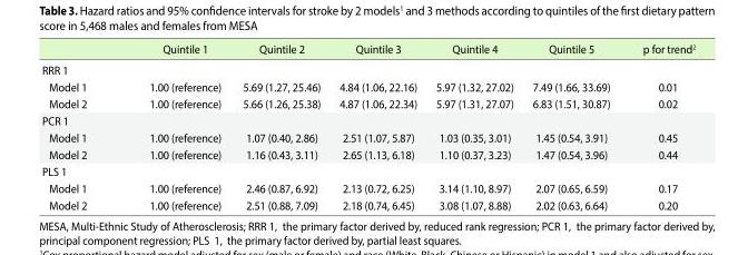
<table><thead><tr><td></td><td>Quintile 1</td><td>Quintile 2</td><td>Quintile 3</td><td>Quintile 4</td><td>Quintile 5</td><td>p for trend<sup>2</sup></td></tr></thead><tbody><tr><td colspan="7">RRR 1</td></tr><tr><td>Model 1</td><td>1.00 (reference)</td><td>5.69 (1.27, 25.46)</td><td>4.84 (1.06, 22.16)</td><td>5.97 (1.32, 27.02)</td><td>7.49 (1.66, 33.69)</td><td>0.01</td></tr><tr><td>Model 2</td><td>1.00 (reference)</td><td>5.66 (1.26, 25.38)</td><td>4.87 (1.06, 22.34)</td><td>5.97 (1.31, 27.07)</td><td>6.83 (1.51, 30.87)</td><td>0.02</td></tr><tr><td colspan="7">PCR 1</td></tr><tr><td>Model 1</td><td>1.00 (reference)</td><td>1.07 (0.40, 2.86)</td><td>2.51 (1.07, 5.87)</td><td>1.03 (0.35, 3.01)</td><td>1.45 (0.54, 3.91)</td><td>0.45</td></tr><tr><td>Model 2</td><td>1.00 (reference)</td><td>1.16 (0.43, 3.11)</td><td>2.65 (1.13, 6.18)</td><td>1.10 (0.37, 3.23)</td><td>1.47 (0.54, 3.96)</td><td>0.44</td></tr><tr><td colspan="7">PLS 1</td></tr><tr><td>Model 1</td><td>1.00 (reference)</td><td>2.46 (0.87, 6.92)</td><td>2.13 (0.72, 6.25)</td><td>3.14 (1.10, 8.97)</td><td>2.07 (0.65, 6.59)</td><td>0.17</td></tr><tr><td>Model 2</td><td>1.00 (reference)</td><td>2.51 (0.88, 7.09)</td><td>2.18 (0.74, 6.45)</td><td>3.08 (1.07, 8.88)</td><td>2.02 (0.63, 6.64)</td><td>0.20</td></tr></tbody></table>